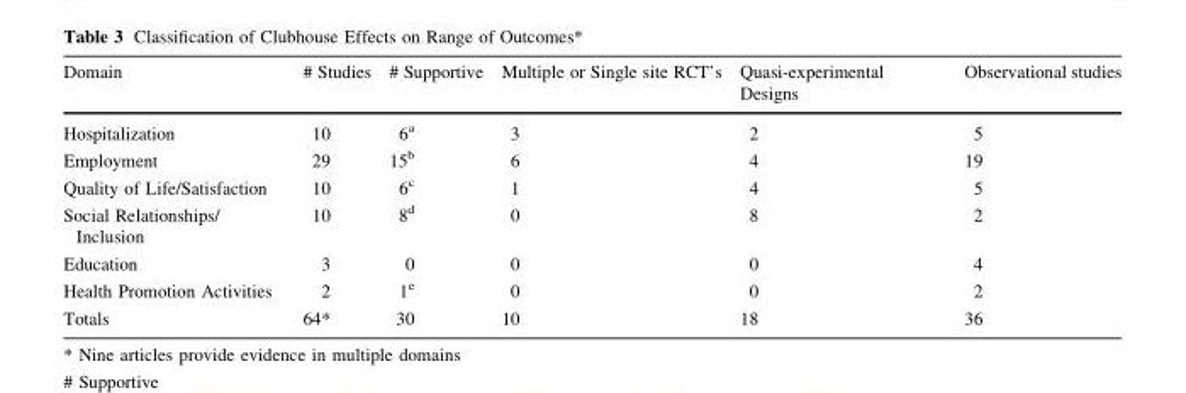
<table><thead><tr><td>Domain</td><td># Studies</td><td># Supportive</td><td>Multiple or Single site RCT’s</td><td>Quasi-experimental Designs</td><td>Observational studies</td></tr></thead><tbody><tr><td>Hospitalization</td><td>10</td><td>6<sup>a</sup></td><td>3</td><td>2</td><td>5</td></tr><tr><td>Employment</td><td>29</td><td>15<sup>b</sup></td><td>6</td><td>4</td><td>19</td></tr><tr><td>Quality of Life/Satisfaction</td><td>10</td><td>6<sup>c</sup></td><td>1</td><td>4</td><td>5</td></tr><tr><td>Social Relationships/ Inclusion</td><td>10</td><td>8<sup>d</sup></td><td>0</td><td>8</td><td>2</td></tr><tr><td>Education</td><td>3</td><td>0</td><td>0</td><td>0</td><td>4</td></tr><tr><td>Health Promotion Activities</td><td>2</td><td>1<sup>e</sup></td><td>0</td><td>0</td><td>2</td></tr><tr><td>Totals</td><td>64*</td><td>30</td><td>10</td><td>18</td><td>36</td></tr></tbody></table>